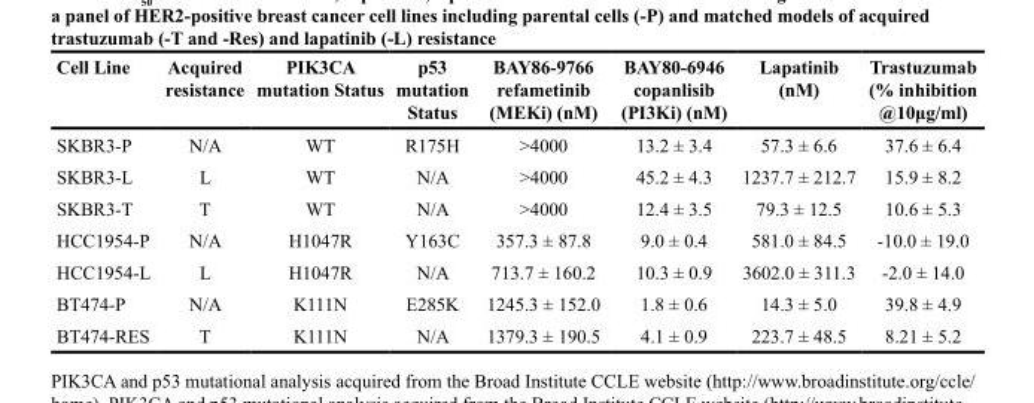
<table><thead><tr><td>Cell Line</td><td>Acquired resistance</td><td>PIK3CA mutation Status</td><td>p53 mutation Status</td><td>BAY86-9766 refametinib (MEKi) (nM)</td><td>BAY80-6946 copanlisib (PI3Ki) (nM)</td><td>Lapatinib (nM)</td><td>Trastuzumab (% inhibition @10μg/ml)</td></tr></thead><tbody><tr><td>SKBR3-P</td><td>N/A</td><td>WT</td><td>R175H</td><td>&gt;4000</td><td>13.2 ± 3.4</td><td>57.3 ± 6.6</td><td>37.6 ± 6.4</td></tr><tr><td>SKBR3-L</td><td>L</td><td>WT</td><td>N/A</td><td>&gt;4000</td><td>45.2 ± 4.3</td><td>1237.7 ± 212.7</td><td>15.9 ± 8.2</td></tr><tr><td>SKBR3-T</td><td>T</td><td>WT</td><td>N/A</td><td>&gt;4000</td><td>12.4 ± 3.5</td><td>79.3 ± 12.5</td><td>10.6 ± 5.3</td></tr><tr><td>HCC1954-P</td><td>N/A</td><td>H1047R</td><td>Y163C</td><td>357.3 ± 87.8</td><td>9.0 ± 0.4</td><td>581.0 ± 84.5</td><td>-10.0 ± 19.0</td></tr><tr><td>HCC1954-L</td><td>L</td><td>H1047R</td><td>N/A</td><td>713.7 ± 160.2</td><td>10.3 ± 0.9</td><td>3602.0 ± 311.3</td><td>-2.0 ± 14.0</td></tr><tr><td>BT474-P</td><td>N/A</td><td>K111N</td><td>E285K</td><td>1245.3 ± 152.0</td><td>1.8 ± 0.6</td><td>14.3 ± 5.0</td><td>39.8 ± 4.9</td></tr><tr><td>BT474-RES</td><td>T</td><td>K111N</td><td>N/A</td><td>1379.3 ± 190.5</td><td>4.1 ± 0.9</td><td>223.7 ± 48.5</td><td>8.21 ± 5.2</td></tr></tbody></table>